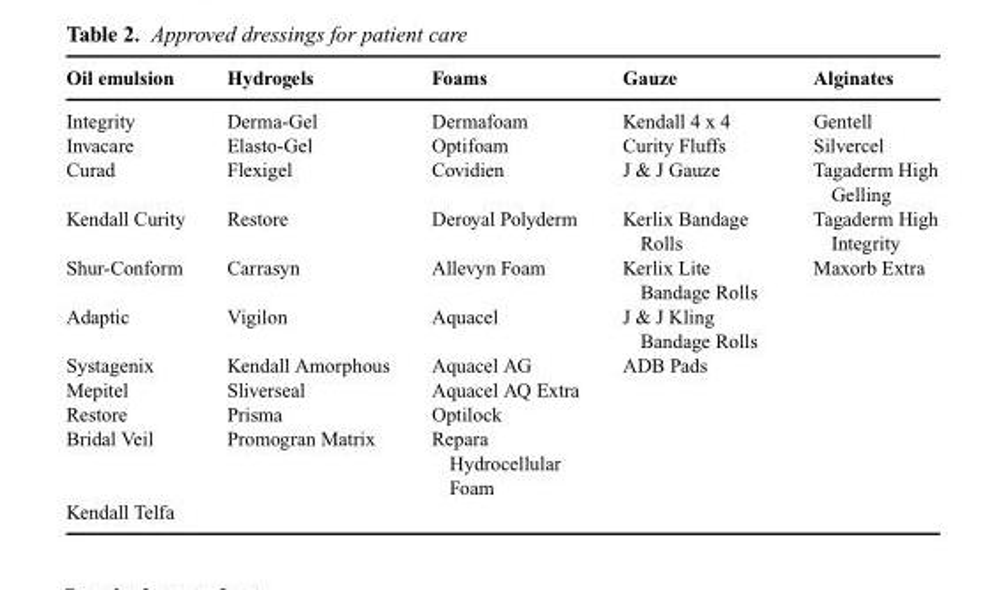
<table><thead><tr><td>Oil emulsion</td><td>Hydrogels</td><td>Foams</td><td>Gauze</td><td>Alginates</td></tr></thead><tbody><tr><td>Integrity</td><td>Derma-Gel</td><td>Dermafoam</td><td>Kendall 4 x 4</td><td>Gentell</td></tr><tr><td>Invacare</td><td>Elasto-Gel</td><td>Optifoam</td><td>Curity Fluffs</td><td>Silvercel</td></tr><tr><td>Curad</td><td>Flexigel</td><td>Covidien</td><td>J &amp; J Gauze</td><td>Tagaderm High Gelling</td></tr><tr><td>Kendall Curity</td><td>Restore</td><td>Deroyal Polyderm</td><td>Kerlix Bandage Rolls</td><td>Tagaderm High Integrity</td></tr><tr><td>Shur-Conform</td><td>Carrasyn</td><td>Allevyn Foam</td><td>Kerlix Lite Bandage Rolls</td><td>Maxorb Extra</td></tr><tr><td>Adaptic</td><td>Vigilon</td><td>Aquacel</td><td>J &amp; J Kling Bandage Rolls</td><td></td></tr><tr><td>Systagenix</td><td>Kendall Amorphous</td><td>Aquacel AG</td><td>ADB Pads</td><td></td></tr><tr><td>Mepitel</td><td>Sliverseal</td><td>Aquacel AQ Extra</td><td></td><td></td></tr><tr><td>Restore</td><td>Prisma</td><td>Optilock</td><td></td><td></td></tr><tr><td>Bridal Veil</td><td>Promogran Matrix</td><td>Repara Hydrocellular Foam</td><td></td><td></td></tr><tr><td>Kendall Telfa</td><td></td><td></td><td></td><td></td></tr></tbody></table>